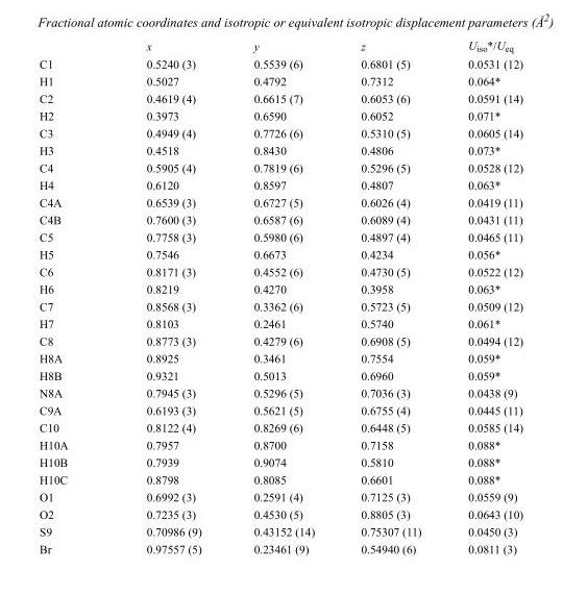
<table><thead><tr><td></td><td>x</td><td>y</td><td>z</td><td>U<sub>iso</sub>*/U<sub>eq</sub></td></tr></thead><tbody><tr><td>C1</td><td>0.5240 (3)</td><td>0.5539 (6)</td><td>0.6801 (5)</td><td>0.0531 (12)</td></tr><tr><td>H1</td><td>0.5027</td><td>0.4792</td><td>0.7312</td><td>0.064*</td></tr><tr><td>C2</td><td>0.4619 (4)</td><td>0.6615 (7)</td><td>0.6053 (6)</td><td>0.0591 (14)</td></tr><tr><td>H2</td><td>0.3973</td><td>0.6590</td><td>0.6052</td><td>0.071*</td></tr><tr><td>C3</td><td>0.4949 (4)</td><td>0.7726 (6)</td><td>0.5310 (5)</td><td>0.0605 (14)</td></tr><tr><td>H3</td><td>0.4518</td><td>0.8430</td><td>0.4806</td><td>0.073*</td></tr><tr><td>C4</td><td>0.5905 (4)</td><td>0.7819 (6)</td><td>0.5296 (5)</td><td>0.0528 (12)</td></tr><tr><td>H4</td><td>0.6120</td><td>0.8597</td><td>0.4807</td><td>0.063*</td></tr><tr><td>C4A</td><td>0.6539 (3)</td><td>0.6727 (5)</td><td>0.6026 (4)</td><td>0.0419 (11)</td></tr><tr><td>C4B</td><td>0.7600 (3)</td><td>0.6587 (6)</td><td>0.6089 (4)</td><td>0.0431 (11)</td></tr><tr><td>C5</td><td>0.7758 (3)</td><td>0.5980 (6)</td><td>0.4897 (4)</td><td>0.0465 (11)</td></tr><tr><td>H5</td><td>0.7546</td><td>0.6673</td><td>0.4234</td><td>0.056*</td></tr><tr><td>C6</td><td>0.8171 (3)</td><td>0.4552 (6)</td><td>0.4730 (5)</td><td>0.0522 (12)</td></tr><tr><td>H6</td><td>0.8219</td><td>0.4270</td><td>0.3958</td><td>0.063*</td></tr><tr><td>C7</td><td>0.8568 (3)</td><td>0.3362 (6)</td><td>0.5723 (5)</td><td>0.0509 (12)</td></tr><tr><td>H7</td><td>0.8103</td><td>0.2461</td><td>0.5740</td><td>0.061*</td></tr><tr><td>C8</td><td>0.8773 (3)</td><td>0.4279 (6)</td><td>0.6908 (5)</td><td>0.0494 (12)</td></tr><tr><td>H8A</td><td>0.8925</td><td>0.3461</td><td>0.7554</td><td>0.059*</td></tr><tr><td>H8B</td><td>0.9321</td><td>0.5013</td><td>0.6960</td><td>0.059*</td></tr><tr><td>N8A</td><td>0.7945 (3)</td><td>0.5296 (5)</td><td>0.7036 (3)</td><td>0.0438 (9)</td></tr><tr><td>C9A</td><td>0.6193 (3)</td><td>0.5621 (5)</td><td>0.6755 (4)</td><td>0.0445 (11)</td></tr><tr><td>C10</td><td>0.8122 (4)</td><td>0.8269 (6)</td><td>0.6448 (5)</td><td>0.0585 (14)</td></tr><tr><td>H10A</td><td>0.7957</td><td>0.8700</td><td>0.7158</td><td>0.088*</td></tr><tr><td>H10B</td><td>0.7939</td><td>0.9074</td><td>0.5810</td><td>0.088*</td></tr><tr><td>H10C</td><td>0.8798</td><td>0.8085</td><td>0.6601</td><td>0.088*</td></tr><tr><td>O1</td><td>0.6992 (3)</td><td>0.2591 (4)</td><td>0.7125 (3)</td><td>0.0559 (9)</td></tr><tr><td>O2</td><td>0.7235 (3)</td><td>0.4530 (5)</td><td>0.8805 (3)</td><td>0.0643 (10)</td></tr><tr><td>S9</td><td>0.70986 (9)</td><td>0.43152 (14)</td><td>0.75307 (11)</td><td>0.0450 (3)</td></tr><tr><td>Br</td><td>0.97557 (5)</td><td>0.23461 (9)</td><td>0.54940 (6)</td><td>0.0811 (3)</td></tr></tbody></table>